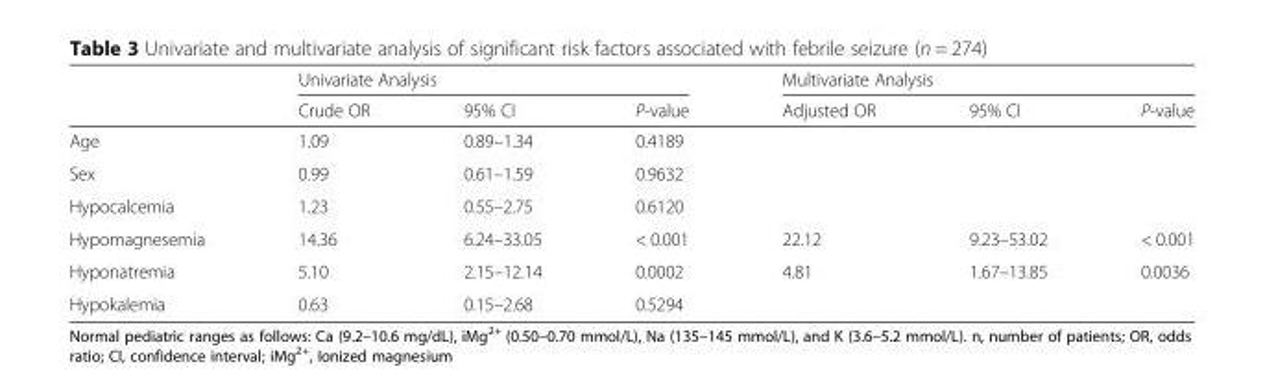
<table><thead><tr><td rowspan="2"></td><td colspan="3">Univariate Analysis</td><td colspan="3">Multivariate Analysis</td></tr><tr><td>Crude OR</td><td>95% CI</td><td>P-value</td><td>Adjusted OR</td><td>95% CI</td><td>P-value</td></tr></thead><tbody><tr><td>Age</td><td>1.09</td><td>0.89–1.34</td><td>0.4189</td><td></td><td></td><td></td></tr><tr><td>Sex</td><td>0.99</td><td>0.61–1.59</td><td>0.9632</td><td></td><td></td><td></td></tr><tr><td>Hypocalcemia</td><td>1.23</td><td>0.55–2.75</td><td>0.6120</td><td></td><td></td><td></td></tr><tr><td>Hypomagnesemia</td><td>14.36</td><td>6.24–33.05</td><td>&lt; 0.001</td><td>22.12</td><td>9.23–53.02</td><td>&lt; 0.001</td></tr><tr><td>Hyponatremia</td><td>5.10</td><td>2.15–12.14</td><td>0.0002</td><td>4.81</td><td>1.67–13.85</td><td>0.0036</td></tr><tr><td>Hypokalemia</td><td>0.63</td><td>0.15–2.68</td><td>0.5294</td><td></td><td></td><td></td></tr></tbody></table>